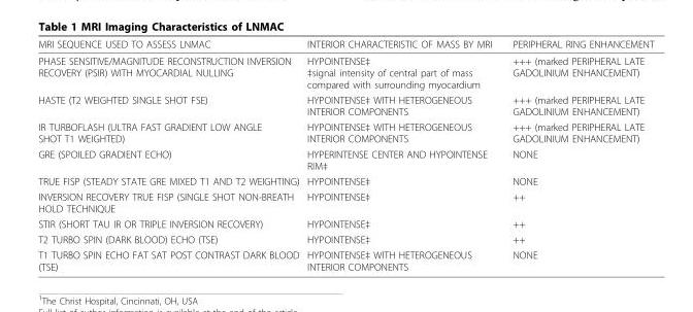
<table><thead><tr><td>MRI SEQUENCE USED TO ASSESS LNMAC</td><td>INTERIOR CHARACTERISTIC OF MASS BY MRI</td><td>PERIPHERAL RING ENHANCEMENT</td></tr></thead><tbody><tr><td>PHASE SENSITIVE/MAGNITUDE RECONSTRUCTION INVERSION RECOVERY (PSIR) WITH MYOCARDIAL NULLING</td><td>HYPOINTENSE‡ ‡signal intensity of central part of mass compared with surrounding myocardium</td><td>+++ (marked PERIPHERAL LATE GADOLINIUM ENHANCEMENT)</td></tr><tr><td>HASTE (T2 WEIGHTED SINGLE SHOT FSE)</td><td>HYPOINTENSE‡ WITH HETEROGENEOUS INTERIOR COMPONENTS</td><td>+++ (marked PERIPHERAL LATE GADOLINIUM ENHANCEMENT)</td></tr><tr><td>IR TURBOFLASH (ULTRA FAST GRADIENT LOW ANGLE SHOT T1 WEIGHTED)</td><td>HYPOINTENSE‡ WITH HETEROGENEOUS INTERIOR COMPONENTS</td><td>+++ (marked PERIPHERAL LATE GADOLINIUM ENHANCEMENT)</td></tr><tr><td>GRE (SPOILED GRADIENT ECHO)</td><td>HYPERINTENSE CENTER AND HYPOINTENSE RIM‡</td><td>NONE</td></tr><tr><td>TRUE FISP (STEADY STATE GRE MIXED T1 AND T2 WEIGHTING)</td><td>HYPOINTENSE‡</td><td>NONE</td></tr><tr><td>INVERSION RECOVERY TRUE FISP (SINGLE SHOT NON-BREATH HOLD TECHNIQUE</td><td>HYPOINTENSE‡</td><td>++</td></tr><tr><td>STIR (SHORT TAU IR OR TRIPLE INVERSION RECOVERY)</td><td>HYPOINTENSE‡</td><td>++</td></tr><tr><td>T2 TURBO SPIN (DARK BLOOD) ECHO (TSE)</td><td>HYPOINTENSE‡</td><td>++</td></tr><tr><td>T1 TURBO SPIN ECHO FAT SAT POST CONTRAST DARK BLOOD (TSE)</td><td>HYPOINTENSE‡ WITH HETEROGENEOUS INTERIOR COMPONENTS</td><td>NONE</td></tr></tbody></table>